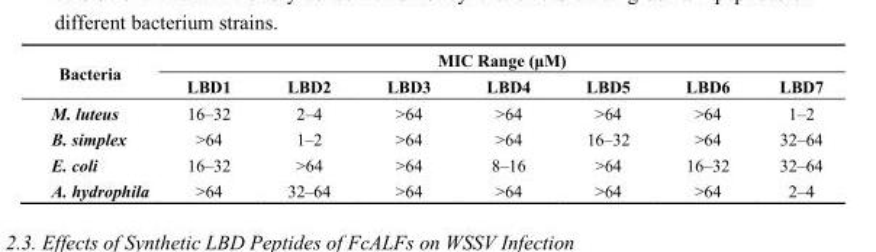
<table><thead><tr><td rowspan="2">Bacteria</td><td colspan="7">MIC Range (μM)</td></tr><tr><td>LBD1</td><td>LBD2</td><td>LBD3</td><td>LBD4</td><td>LBD5</td><td>LBD6</td><td>LBD7</td></tr></thead><tbody><tr><td>M. luteus</td><td>16–32</td><td>2–4</td><td>&gt;64</td><td>&gt;64</td><td>&gt;64</td><td>&gt;64</td><td>1–2</td></tr><tr><td>B. simplex</td><td>&gt;64</td><td>1–2</td><td>&gt;64</td><td>&gt;64</td><td>16–32</td><td>&gt;64</td><td>32–64</td></tr><tr><td>E. coli</td><td>16–32</td><td>&gt;64</td><td>&gt;64</td><td>8–16</td><td>&gt;64</td><td>16–32</td><td>32–64</td></tr><tr><td>A. hydrophila</td><td>&gt;64</td><td>32–64</td><td>&gt;64</td><td>&gt;64</td><td>&gt;64</td><td>&gt;64</td><td>2–4</td></tr></tbody></table>